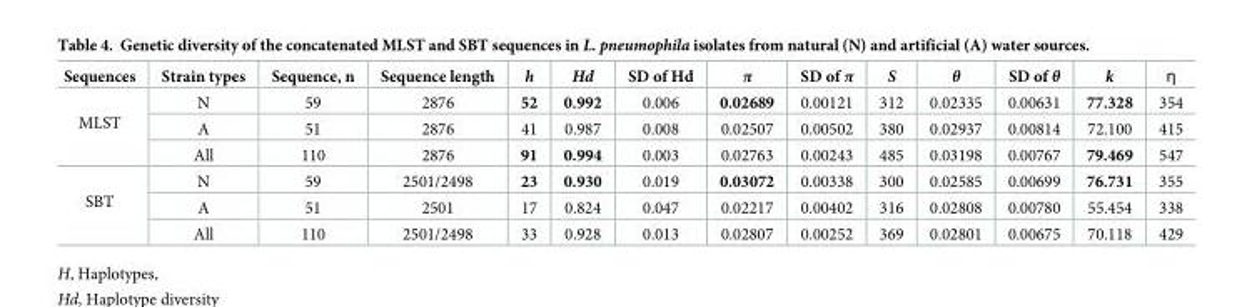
<table><thead><tr><td>Sequences</td><td>Strain types</td><td>Sequence, n</td><td>Sequence length</td><td>h</td><td>Hd</td><td>SD of Hd</td><td>π</td><td>SD of π</td><td>S</td><td>θ</td><td>SD of θ</td><td>k</td><td>ƞ</td></tr></thead><tbody><tr><td rowspan="3">MLST</td><td>N</td><td>59</td><td>2876</td><td>52</td><td>0.992</td><td>0.006</td><td>0.02689</td><td>0.00121</td><td>312</td><td>0.02335</td><td>0.00631</td><td>77.328</td><td>354</td></tr><tr><td>A</td><td>51</td><td>2876</td><td>41</td><td>0.987</td><td>0.008</td><td>0.02507</td><td>0.00502</td><td>380</td><td>0.02937</td><td>0.00814</td><td>72.100</td><td>415</td></tr><tr><td>All</td><td>110</td><td>2876</td><td>91</td><td>0.994</td><td>0.003</td><td>0.02763</td><td>0.00243</td><td>485</td><td>0.03198</td><td>0.00767</td><td>79.469</td><td>547</td></tr><tr><td rowspan="3">SBT</td><td>N</td><td>59</td><td>2501/2498</td><td>23</td><td>0.930</td><td>0.019</td><td>0.03072</td><td>0.00338</td><td>300</td><td>0.02585</td><td>0.00699</td><td>76.731</td><td>355</td></tr><tr><td>A</td><td>51</td><td>2501</td><td>17</td><td>0.824</td><td>0.047</td><td>0.02217</td><td>0.00402</td><td>316</td><td>0.02808</td><td>0.00780</td><td>55.454</td><td>338</td></tr><tr><td>All</td><td>110</td><td>2501/2498</td><td>33</td><td>0.928</td><td>0.013</td><td>0.02807</td><td>0.00252</td><td>369</td><td>0.02801</td><td>0.00675</td><td>70.118</td><td>429</td></tr></tbody></table>